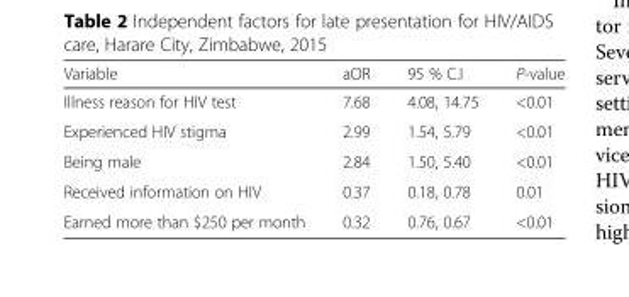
<table><thead><tr><td>Variable</td><td>aOR</td><td>95 % C.I</td><td>P-value</td></tr></thead><tbody><tr><td>Illness reason for HIV test</td><td>7.68</td><td>4.08, 14.75</td><td>&lt;0.01</td></tr><tr><td>Experienced HIV stigma</td><td>2.99</td><td>1.54, 5.79</td><td>&lt;0.01</td></tr><tr><td>Being male</td><td>2.84</td><td>1.50, 5.40</td><td>&lt;0.01</td></tr><tr><td>Received information on HIV</td><td>0.37</td><td>0.18, 0.78</td><td>0.01</td></tr><tr><td>Earned more than $250 per month</td><td>0.32</td><td>0.76, 0.67</td><td>&lt;0.01</td></tr></tbody></table>